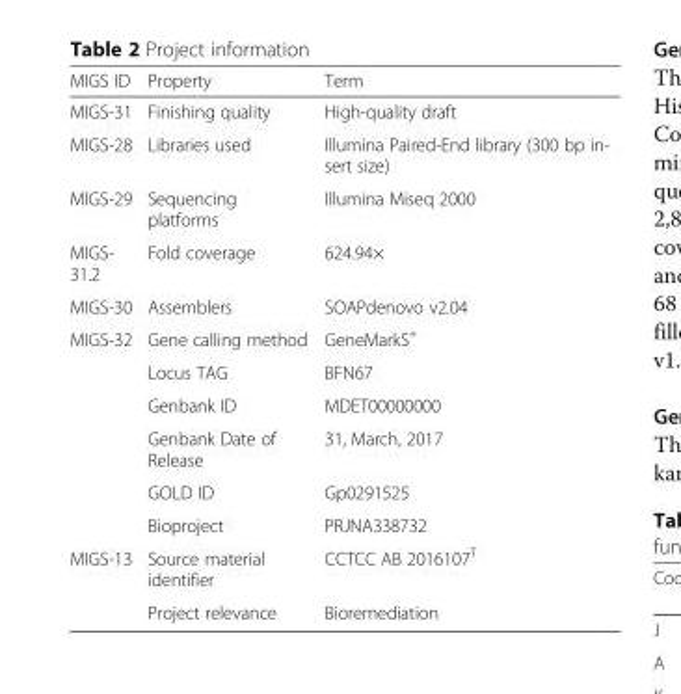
<table><thead><tr><td>MIGS ID</td><td>Property</td><td>Term</td></tr></thead><tbody><tr><td>MIGS-31</td><td>Finishing quality</td><td>High-quality draft</td></tr><tr><td>MIGS-28</td><td>Libraries used</td><td>Illumina Paired-End library (300 bp in- sert size)</td></tr><tr><td>MIGS-29</td><td>Sequencing platforms</td><td>Illumina Miseq 2000</td></tr><tr><td>MIGS- 31.2</td><td>Fold coverage</td><td>624.94×</td></tr><tr><td>MIGS-30</td><td>Assemblers</td><td>SOAPdenovo v2.04</td></tr><tr><td rowspan="6">MIGS-32</td><td>Gene calling method</td><td>GeneMarkS<sup>+</sup></td></tr><tr><td>Locus TAG</td><td>BFN67</td></tr><tr><td>Genbank ID</td><td>MDET00000000</td></tr><tr><td>Genbank Date of Release</td><td>31, March, 2017</td></tr><tr><td>GOLD ID</td><td>Gp0291525</td></tr><tr><td>Bioproject</td><td>PRJNA338732</td></tr><tr><td rowspan="2">MIGS-13</td><td>Source material identifier</td><td>CCTCC AB 2016107<sup>T</sup></td></tr><tr><td>Project relevance</td><td>Bioremediation</td></tr></tbody></table>